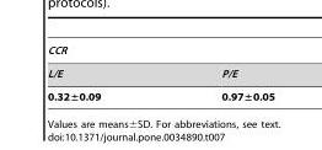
<table><thead><tr><td colspan="2">CCR</td></tr><tr><td>L/E</td><td>P/E</td></tr></thead><tbody><tr><td>0.32±0.09</td><td>0.97±0.05</td></tr></tbody></table>